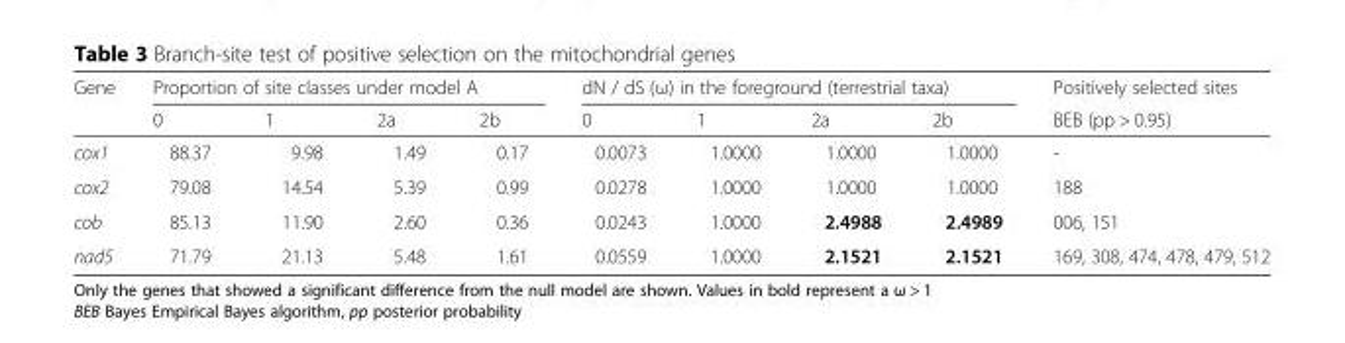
<table><thead><tr><td rowspan="2">Gene</td><td colspan="4">Proportion of site classes under model A</td><td colspan="4">dN / dS (ω) in the foreground (terrestrial taxa)</td><td rowspan="2">Positively selected sites BEB (pp &gt; 0.95)</td></tr><tr><td>0</td><td>1</td><td>2a</td><td>2b</td><td>0</td><td>1</td><td>2a</td><td>2b</td></tr></thead><tbody><tr><td>cox1</td><td>88.37</td><td>9.98</td><td>1.49</td><td>0.17</td><td>0.0073</td><td>1.0000</td><td>1.0000</td><td>1.0000</td><td>-</td></tr><tr><td>cox2</td><td>79.08</td><td>14.54</td><td>5.39</td><td>0.99</td><td>0.0278</td><td>1.0000</td><td>1.0000</td><td>1.0000</td><td>188</td></tr><tr><td>cob</td><td>85.13</td><td>11.90</td><td>2.60</td><td>0.36</td><td>0.0243</td><td>1.0000</td><td>2.4988</td><td>2.4989</td><td>006, 151</td></tr><tr><td>nad5</td><td>71.79</td><td>21.13</td><td>5.48</td><td>1.61</td><td>0.0559</td><td>1.0000</td><td>2.1521</td><td>2.1521</td><td>169, 308, 474, 478, 479, 512</td></tr></tbody></table>